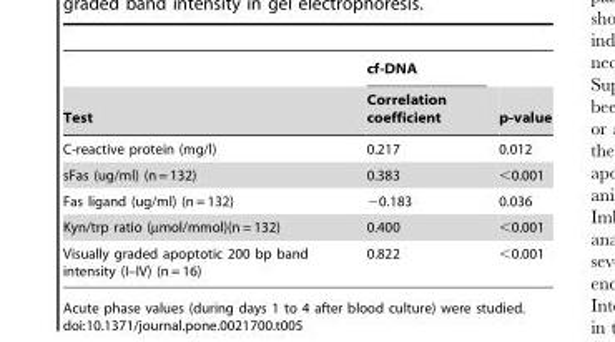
<table><thead><tr><td rowspan="2">Test</td><td rowspan="2">cf-DNA Correlation coefficient</td><td rowspan="2">p-value</td></tr><tr></tr></thead><tbody><tr><td>C-reactive protein (mg/l)</td><td>0.217</td><td>0.012</td></tr><tr><td>sFas (ug/ml) (n = 132)</td><td>0.383</td><td>&lt;0.001</td></tr><tr><td>Fas ligand (ug/ml) (n = 132)</td><td>−0.183</td><td>0.036</td></tr><tr><td>Kyn/trp ratio (µmol/mmol)(n = 132)</td><td>0.400</td><td>&lt;0.001</td></tr><tr><td>Visually graded apoptotic 200 bp band intensity (I–IV) (n = 16)</td><td>0.822</td><td>&lt;0.001</td></tr></tbody></table>